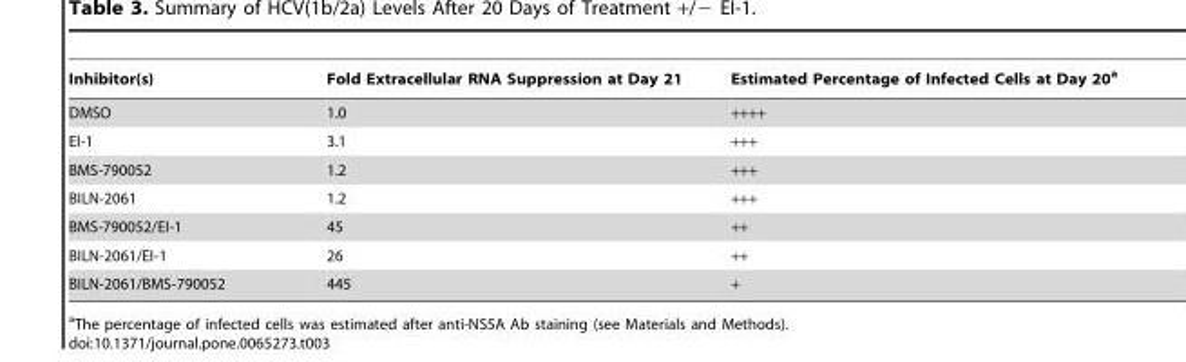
<table><thead><tr><td>Inhibitor(s)</td><td>Fold Extracellular RNA Suppression at Day 21</td><td>Estimated Percentage of Infected Cells at Day 20<sup>a</sup></td></tr></thead><tbody><tr><td>DMSO</td><td>1.0</td><td>++++</td></tr><tr><td>EI-1</td><td>3.1</td><td>+++</td></tr><tr><td>BMS-790052</td><td>1.2</td><td>+++</td></tr><tr><td>BILN-2061</td><td>1.2</td><td>+++</td></tr><tr><td>BMS-790052/EI-1</td><td>45</td><td>++</td></tr><tr><td>BILN-2061/EI-1</td><td>26</td><td>++</td></tr><tr><td>BILN-2061/BMS-790052</td><td>445</td><td>+</td></tr></tbody></table>